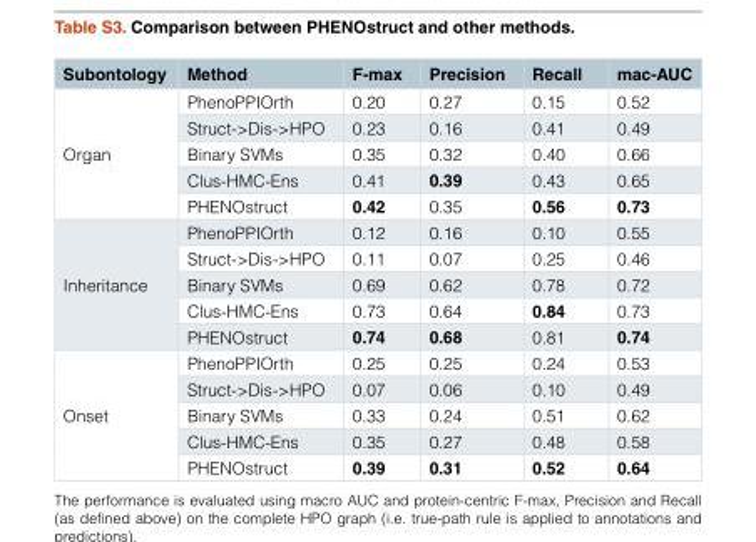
<table><thead><tr><td>Subontology</td><td>Method</td><td>F-max</td><td>Precision</td><td>Recall</td><td>mac-AUC</td></tr></thead><tbody><tr><td rowspan="5">Organ</td><td>PhenoPPIOrth</td><td>0.20</td><td>0.27</td><td>0.15</td><td>0.52</td></tr><tr><td>Struct-&gt;Dis-&gt;HPO</td><td>0.23</td><td>0.16</td><td>0.41</td><td>0.49</td></tr><tr><td>Binary SVMs</td><td>0.35</td><td>0.32</td><td>0.40</td><td>0.66</td></tr><tr><td>Clus-HMC-Ens</td><td>0.41</td><td>0.39</td><td>0.43</td><td>0.65</td></tr><tr><td>PHENOstruct</td><td>0.42</td><td>0.35</td><td>0.56</td><td>0.73</td></tr><tr><td rowspan="5">Inheritance</td><td>PhenoPPIOrth</td><td>0.12</td><td>0.16</td><td>0.10</td><td>0.55</td></tr><tr><td>Struct-&gt;Dis-&gt;HPO</td><td>0.11</td><td>0.07</td><td>0.25</td><td>0.46</td></tr><tr><td>Binary SVMs</td><td>0.69</td><td>0.62</td><td>0.78</td><td>0.72</td></tr><tr><td>Clus-HMC-Ens</td><td>0.73</td><td>0.64</td><td>0.84</td><td>0.73</td></tr><tr><td>PHENOstruct</td><td>0.74</td><td>0.68</td><td>0.81</td><td>0.74</td></tr><tr><td rowspan="5">Onset</td><td>PhenoPPIOrth</td><td>0.25</td><td>0.25</td><td>0.24</td><td>0.53</td></tr><tr><td>Struct-&gt;Dis-&gt;HPO</td><td>0.07</td><td>0.06</td><td>0.10</td><td>0.49</td></tr><tr><td>Binary SVMs</td><td>0.33</td><td>0.24</td><td>0.51</td><td>0.62</td></tr><tr><td>Clus-HMC-Ens</td><td>0.35</td><td>0.27</td><td>0.48</td><td>0.58</td></tr><tr><td>PHENOstruct</td><td>0.39</td><td>0.31</td><td>0.52</td><td>0.64</td></tr></tbody></table>